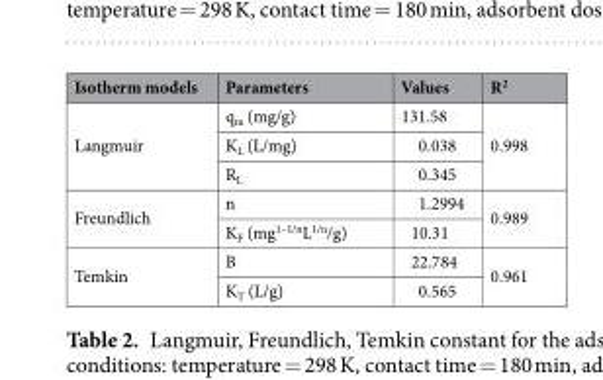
<table><thead><tr><td>Isotherm models</td><td>Parameters</td><td>Values</td><td>R<sup>2</sup></td></tr></thead><tbody><tr><td rowspan="3">Langmuir</td><td>q<sub>m</sub> (mg/g)</td><td>131.58</td><td rowspan="3">0.998</td></tr><tr><td>K<sub>L</sub> (L/mg)</td><td>0.038</td></tr><tr><td>R<sub>L</sub></td><td>0.345</td></tr><tr><td rowspan="2">Freundlich</td><td>n</td><td>1.2994</td><td rowspan="2">0.989</td></tr><tr><td>K<sub>F</sub> (mg<sup>1–1/n</sup>L<sup>1/n</sup>/g)</td><td>10.31</td></tr><tr><td rowspan="2">Temkin</td><td>B</td><td>22.784</td><td rowspan="2">0.961</td></tr><tr><td>K<sub>T</sub> (L/g)</td><td>0.565</td></tr></tbody></table>